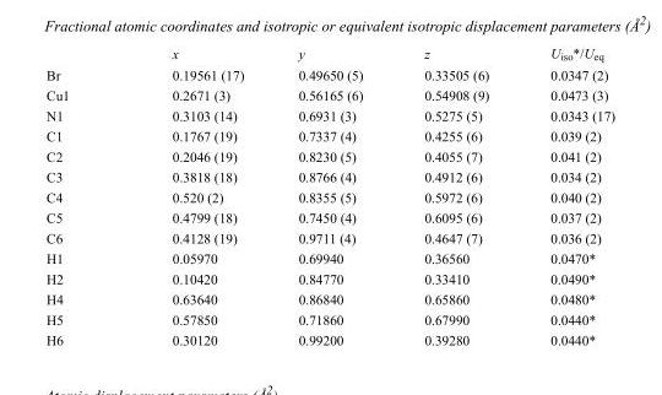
<table><thead><tr><td></td><td>x</td><td>y</td><td>z</td><td>U<sub>iso</sub>*/U<sub>eq</sub></td></tr></thead><tbody><tr><td>Br</td><td>0.19561 (17)</td><td>0.49650 (5)</td><td>0.33505 (6)</td><td>0.0347 (2)</td></tr><tr><td>Cu1</td><td>0.2671 (3)</td><td>0.56165 (6)</td><td>0.54908 (9)</td><td>0.0473 (3)</td></tr><tr><td>N1</td><td>0.3103 (14)</td><td>0.6931 (3)</td><td>0.5275 (5)</td><td>0.0343 (17)</td></tr><tr><td>C1</td><td>0.1767 (19)</td><td>0.7337 (4)</td><td>0.4255 (6)</td><td>0.039 (2)</td></tr><tr><td>C2</td><td>0.2046 (19)</td><td>0.8230 (5)</td><td>0.4055 (7)</td><td>0.041 (2)</td></tr><tr><td>C3</td><td>0.3818 (18)</td><td>0.8766 (4)</td><td>0.4912 (6)</td><td>0.034 (2)</td></tr><tr><td>C4</td><td>0.520 (2)</td><td>0.8355 (5)</td><td>0.5972 (6)</td><td>0.040 (2)</td></tr><tr><td>C5</td><td>0.4799 (18)</td><td>0.7450 (4)</td><td>0.6095 (6)</td><td>0.037 (2)</td></tr><tr><td>C6</td><td>0.4128 (19)</td><td>0.9711 (4)</td><td>0.4647 (7)</td><td>0.036 (2)</td></tr><tr><td>H1</td><td>0.05970</td><td>0.69940</td><td>0.36560</td><td>0.0470*</td></tr><tr><td>H2</td><td>0.10420</td><td>0.84770</td><td>0.33410</td><td>0.0490*</td></tr><tr><td>H4</td><td>0.63640</td><td>0.86840</td><td>0.65860</td><td>0.0480*</td></tr><tr><td>H5</td><td>0.57850</td><td>0.71860</td><td>0.67990</td><td>0.0440*</td></tr><tr><td>H6</td><td>0.30120</td><td>0.99200</td><td>0.39280</td><td>0.0440*</td></tr></tbody></table>